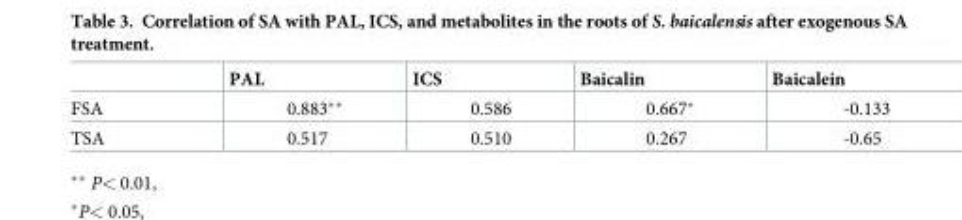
<table><thead><tr><td></td><td>PAL</td><td>ICS</td><td>Baicalin</td><td>Baicalein</td></tr></thead><tbody><tr><td>FSA</td><td>0.883**</td><td>0.586</td><td>0.667*</td><td>-0.133</td></tr><tr><td>TSA</td><td>0.517</td><td>0.510</td><td>0.267</td><td>-0.65</td></tr></tbody></table>